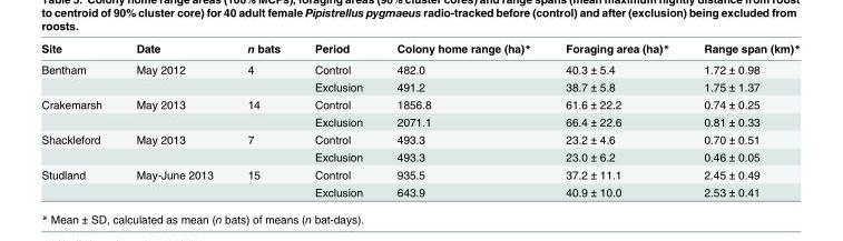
<table><thead><tr><td>Site</td><td>Date</td><td>n bats</td><td>Period</td><td>Colony home range (ha)*</td><td>Foraging area (ha)*</td><td>Range span (km)*</td></tr></thead><tbody><tr><td rowspan="2">Bentham</td><td>May 2012</td><td>4</td><td>Control</td><td>482.0</td><td>40.3 ± 5.4</td><td>1.72 ± 0.98</td></tr><tr><td></td><td></td><td>Exclusion</td><td>491.2</td><td>38.7 ± 5.8</td><td>1.75 ± 1.37</td></tr><tr><td rowspan="2">Crakemarsh</td><td>May 2013</td><td>14</td><td>Control</td><td>1856.8</td><td>61.6 ± 22.2</td><td>0.74 ± 0.25</td></tr><tr><td></td><td></td><td>Exclusion</td><td>2071.1</td><td>66.4 ± 22.6</td><td>0.81 ± 0.33</td></tr><tr><td rowspan="2">Shackleford</td><td>May 2013</td><td>7</td><td>Control</td><td>493.3</td><td>23.2 ± 4.6</td><td>0.70 ± 0.51</td></tr><tr><td></td><td></td><td>Exclusion</td><td>493.3</td><td>23.0 ± 6.2</td><td>0.46 ± 0.05</td></tr><tr><td rowspan="2">Studland</td><td>May-June 2013</td><td>15</td><td>Control</td><td>935.5</td><td>37.2 ± 11.1</td><td>2.45 ± 0.49</td></tr><tr><td></td><td></td><td>Exclusion</td><td>643.9</td><td>40.9 ± 10.0</td><td>2.53 ± 0.41</td></tr></tbody></table>